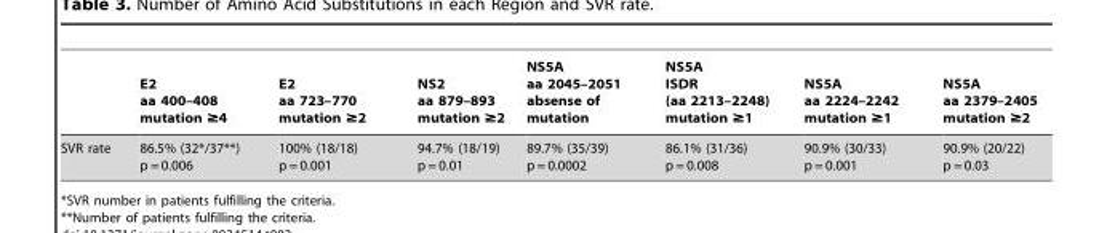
<table><thead><tr><td></td><td>E2 aa 400–408 mutation ≥4</td><td>E2 aa 723–770 mutation ≥2</td><td>NS2 aa 879–893 mutation ≥2</td><td>NS5A aa 2045–2051 absense of mutation</td><td>NS5A ISDR (aa 2213–2248) mutation ≥1</td><td>NS5A aa 2224–2242 mutation ≥1</td><td>NS5A aa 2379–2405 mutation ≥2</td></tr></thead><tbody><tr><td>SVR rate</td><td>86.5% (32*/37**) p = 0.006</td><td>100% (18/18) p = 0.001</td><td>94.7% (18/19) p = 0.01</td><td>89.7% (35/39) p = 0.0002</td><td>86.1% (31/36) p = 0.008</td><td>90.9% (30/33) p = 0.001</td><td>90.9% (20/22) p = 0.03</td></tr></tbody></table>